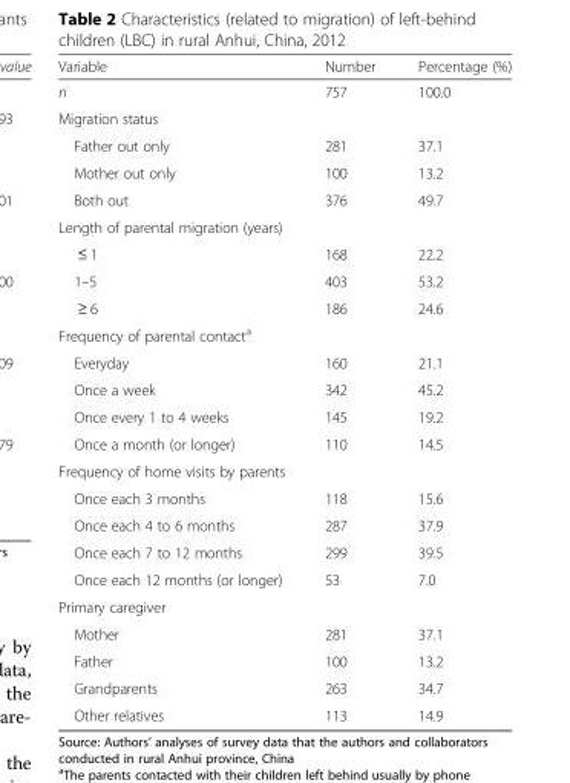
<table><thead><tr><td>Variable</td><td>Number</td><td>Percentage (%)</td></tr></thead><tbody><tr><td>n</td><td>757</td><td>100.0</td></tr><tr><td colspan="3">Migration status</td></tr><tr><td>Father out only</td><td>281</td><td>37.1</td></tr><tr><td>Mother out only</td><td>100</td><td>13.2</td></tr><tr><td>Both out</td><td>376</td><td>49.7</td></tr><tr><td colspan="3">Length of parental migration (years)</td></tr><tr><td>≤ 1</td><td>168</td><td>22.2</td></tr><tr><td>1–5</td><td>403</td><td>53.2</td></tr><tr><td>≥ 6</td><td>186</td><td>24.6</td></tr><tr><td colspan="3">Frequency of parental contact<sup>a</sup></td></tr><tr><td>Everyday</td><td>160</td><td>21.1</td></tr><tr><td>Once a week</td><td>342</td><td>45.2</td></tr><tr><td>Once every 1 to 4 weeks</td><td>145</td><td>19.2</td></tr><tr><td>Once a month (or longer)</td><td>110</td><td>14.5</td></tr><tr><td colspan="3">Frequency of home visits by parents</td></tr><tr><td>Once each 3 months</td><td>118</td><td>15.6</td></tr><tr><td>Once each 4 to 6 months</td><td>287</td><td>37.9</td></tr><tr><td>Once each 7 to 12 months</td><td>299</td><td>39.5</td></tr><tr><td>Once each 12 months (or longer)</td><td>53</td><td>7.0</td></tr><tr><td colspan="3">Primary caregiver</td></tr><tr><td>Mother</td><td>281</td><td>37.1</td></tr><tr><td>Father</td><td>100</td><td>13.2</td></tr><tr><td>Grandparents</td><td>263</td><td>34.7</td></tr><tr><td>Other relatives</td><td>113</td><td>14.9</td></tr></tbody></table>